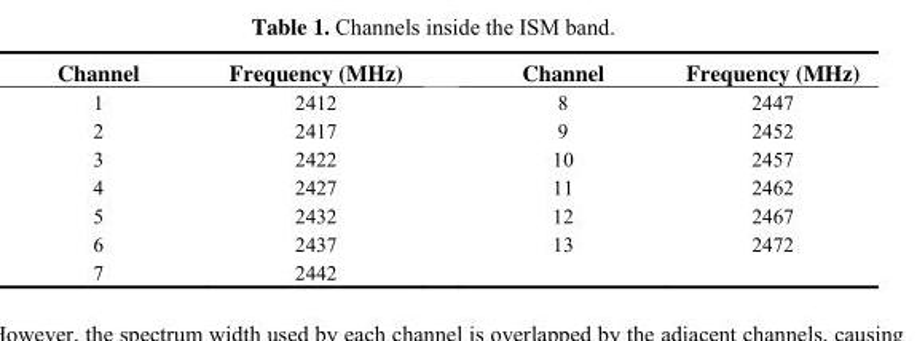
<table><thead><tr><td>Channel</td><td>Frequency (MHz)</td><td>Channel</td><td>Frequency (MHz)</td></tr></thead><tbody><tr><td>1</td><td>2412</td><td>8</td><td>2447</td></tr><tr><td>2</td><td>2417</td><td>9</td><td>2452</td></tr><tr><td>3</td><td>2422</td><td>10</td><td>2457</td></tr><tr><td>4</td><td>2427</td><td>11</td><td>2462</td></tr><tr><td>5</td><td>2432</td><td>12</td><td>2467</td></tr><tr><td>6</td><td>2437</td><td>13</td><td>2472</td></tr><tr><td>7</td><td>2442</td><td></td><td></td></tr></tbody></table>